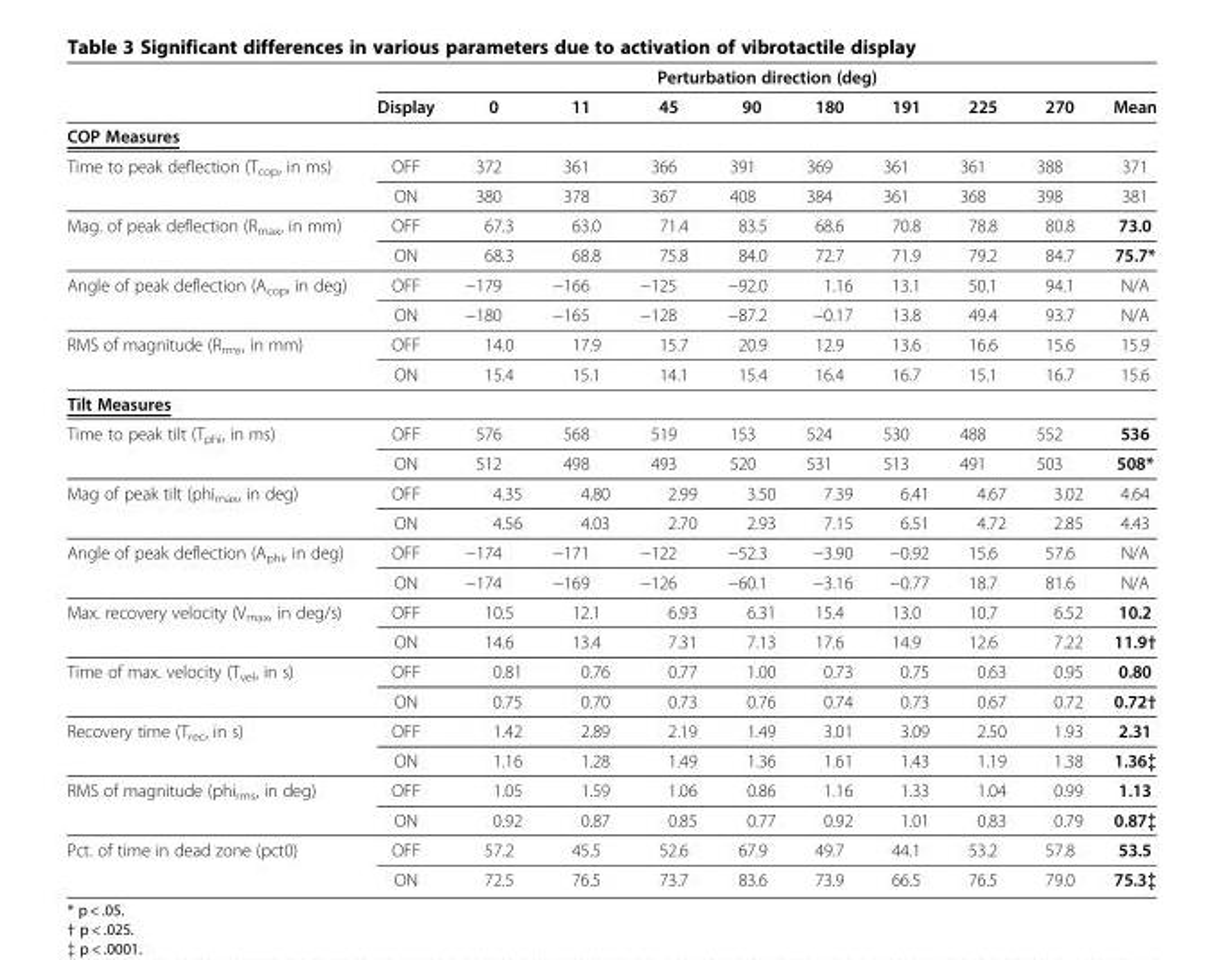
<table><thead><tr><td rowspan="2"></td><td colspan="10">Perturbation direction (deg)</td></tr><tr><td>Display</td><td>0</td><td>11</td><td>45</td><td>90</td><td>180</td><td>191</td><td>225</td><td>270</td><td>Mean</td></tr></thead><tbody><tr><td colspan="11">COP Measures</td></tr><tr><td rowspan="2">Time to peak deflection (T<sub>cop</sub>, in ms)</td><td>OFF</td><td>372</td><td>361</td><td>366</td><td>391</td><td>369</td><td>361</td><td>361</td><td>388</td><td>371</td></tr><tr><td>ON</td><td>380</td><td>378</td><td>367</td><td>408</td><td>384</td><td>361</td><td>368</td><td>398</td><td>381</td></tr><tr><td rowspan="2">Mag. of peak deflection (R<sub>max</sub>, in mm)</td><td>OFF</td><td>67.3</td><td>63.0</td><td>71.4</td><td>83.5</td><td>68.6</td><td>70.8</td><td>78.8</td><td>80.8</td><td>73.0</td></tr><tr><td>ON</td><td>68.3</td><td>68.8</td><td>75.8</td><td>84.0</td><td>72.7</td><td>71.9</td><td>79.2</td><td>84.7</td><td>75.7*</td></tr><tr><td rowspan="2">Angle of peak deflection (A<sub>cop</sub>, in deg)</td><td>OFF</td><td>−179</td><td>−166</td><td>−125</td><td>−92.0</td><td>1.16</td><td>13.1</td><td>50.1</td><td>94.1</td><td>N/A</td></tr><tr><td>ON</td><td>−180</td><td>−165</td><td>−128</td><td>−87.2</td><td>−0.17</td><td>13.8</td><td>49.4</td><td>93.7</td><td>N/A</td></tr><tr><td rowspan="2">RMS of magnitude (R<sub>rms</sub>, in mm)</td><td>OFF</td><td>14.0</td><td>17.9</td><td>15.7</td><td>20.9</td><td>12.9</td><td>13.6</td><td>16.6</td><td>15.6</td><td>15.9</td></tr><tr><td>ON</td><td>15.4</td><td>15.1</td><td>14.1</td><td>15.4</td><td>16.4</td><td>16.7</td><td>15.1</td><td>16.7</td><td>15.6</td></tr><tr><td colspan="11">Tilt Measures</td></tr><tr><td rowspan="2">Time to peak tilt (T<sub>phi</sub>, in ms)</td><td>OFF</td><td>576</td><td>568</td><td>519</td><td>153</td><td>524</td><td>530</td><td>488</td><td>552</td><td>536</td></tr><tr><td>ON</td><td>512</td><td>498</td><td>493</td><td>520</td><td>531</td><td>513</td><td>491</td><td>503</td><td>508*</td></tr><tr><td rowspan="2">Mag of peak tilt (phi<sub>max</sub>, in deg)</td><td>OFF</td><td>4.35</td><td>4.80</td><td>2.99</td><td>3.50</td><td>7.39</td><td>6.41</td><td>4.67</td><td>3.02</td><td>4.64</td></tr><tr><td>ON</td><td>4.56</td><td>4.03</td><td>2.70</td><td>2.93</td><td>7.15</td><td>6.51</td><td>4.72</td><td>2.85</td><td>4.43</td></tr><tr><td rowspan="2">Angle of peak deflection (A<sub>phi</sub>, in deg)</td><td>OFF</td><td>−174</td><td>−171</td><td>−122</td><td>−52.3</td><td>−3.90</td><td>−0.92</td><td>15.6</td><td>57.6</td><td>N/A</td></tr><tr><td>ON</td><td>−174</td><td>−169</td><td>−126</td><td>−60.1</td><td>−3.16</td><td>−0.77</td><td>18.7</td><td>81.6</td><td>N/A</td></tr><tr><td rowspan="2">Max. recovery velocity (V<sub>max</sub>, in deg/s)</td><td>OFF</td><td>10.5</td><td>12.1</td><td>6.93</td><td>6.31</td><td>15.4</td><td>13.0</td><td>10.7</td><td>6.52</td><td>10.2</td></tr><tr><td>ON</td><td>14.6</td><td>13.4</td><td>7.31</td><td>7.13</td><td>17.6</td><td>14.9</td><td>12.6</td><td>7.22</td><td>11.9†</td></tr><tr><td rowspan="2">Time of max. velocity (T<sub>vel</sub>, in s)</td><td>OFF</td><td>0.81</td><td>0.76</td><td>0.77</td><td>1.00</td><td>0.73</td><td>0.75</td><td>0.63</td><td>0.95</td><td>0.80</td></tr><tr><td>ON</td><td>0.75</td><td>0.70</td><td>0.73</td><td>0.76</td><td>0.74</td><td>0.73</td><td>0.67</td><td>0.72</td><td>0.72†</td></tr><tr><td rowspan="2">Recovery time (T<sub>rec</sub>, in s)</td><td>OFF</td><td>1.42</td><td>2.89</td><td>2.19</td><td>1.49</td><td>3.01</td><td>3.09</td><td>2.50</td><td>1.93</td><td>2.31</td></tr><tr><td>ON</td><td>1.16</td><td>1.28</td><td>1.49</td><td>1.36</td><td>1.61</td><td>1.43</td><td>1.19</td><td>1.38</td><td>1.36{{</td></tr><tr><td rowspan="2">RMS of magnitude (phi<sub>rms</sub>, in deg)</td><td>OFF</td><td>1.05</td><td>1.59</td><td>1.06</td><td>0.86</td><td>1.16</td><td>1.33</td><td>1.04</td><td>0.99</td><td>1.13</td></tr><tr><td>ON</td><td>0.92</td><td>0.87</td><td>0.85</td><td>0.77</td><td>0.92</td><td>1.01</td><td>0.83</td><td>0.79</td><td>0.87{{</td></tr><tr><td rowspan="2">Pct. of time in dead zone (pct0)</td><td>OFF</td><td>57.2</td><td>45.5</td><td>52.6</td><td>67.9</td><td>49.7</td><td>44.1</td><td>53.2</td><td>57.8</td><td>53.5</td></tr><tr><td>ON</td><td>72.5</td><td>76.5</td><td>73.7</td><td>83.6</td><td>73.9</td><td>66.5</td><td>76.5</td><td>79.0</td><td>75.3{{</td></tr></tbody></table>